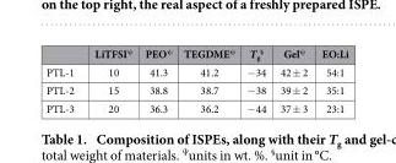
<table><thead><tr><td></td><td>LiTFSI<sup>ψ</sup></td><td>PEO<sup>ψ</sup></td><td>TEGDME<sup>ψ</sup></td><td>T<sub>g</sub> <sup>§</sup></td><td>Gel<sup>ψ</sup></td><td>EO:Li</td></tr></thead><tbody><tr><td>PTL-1</td><td>10</td><td>41.3</td><td>41.2</td><td>− 34</td><td>42 ± 2</td><td>54:1</td></tr><tr><td>PTL-2</td><td>15</td><td>38.8</td><td>38.7</td><td>− 38</td><td>39 ± 2</td><td>35:1</td></tr><tr><td>PTL-3</td><td>20</td><td>36.3</td><td>36.2</td><td>− 44</td><td>37 ± 3</td><td>23:1</td></tr></tbody></table>